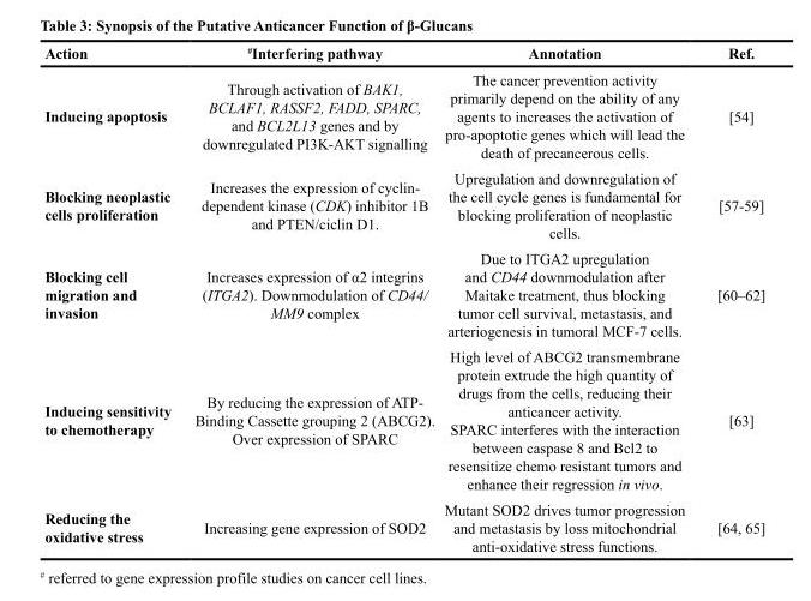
<table><thead><tr><td>Action</td><td><sup>#</sup>Interfering pathway</td><td>Annotation</td><td>Ref.</td></tr></thead><tbody><tr><td>Inducing apoptosis</td><td>Through activation of BAK1, BCLAF1, RASSF2, FADD, SPARC, and BCL2L13 genes and by downregulated PI3K-AKT signalling</td><td>The cancer prevention activity primarily depend on the ability of any agents to increases the activation of pro-apoptotic genes which will lead the death of precancerous cells.</td><td>[54]</td></tr><tr><td>Blocking neoplastic cells proliferation</td><td>Increases the expression of cyclin- dependent kinase (CDK) inhibitor 1B and PTEN/ciclin D1.</td><td>Upregulation and downregulation of the cell cycle genes is fundamental for blocking proliferation of neoplastic cells.</td><td>[57-59]</td></tr><tr><td>Blocking cell migration and invasion</td><td>Increases expression of α2 integrins (ITGA2). Downmodulation of CD44/ MM9 complex</td><td>Due to ITGA2 upregulation and CD44 downmodulation after Maitake treatment, thus blocking tumor cell survival, metastasis, and arteriogenesis in tumoral MCF-7 cells.</td><td>[60–62]</td></tr><tr><td>Inducing sensitivity to chemotherapy</td><td>By reducing the expression of ATP- Binding Cassette grouping 2 (ABCG2). Over expression of SPARC</td><td>High level of ABCG2 transmembrane protein extrude the high quantity of drugs from the cells, reducing their anticancer activity. SPARC interferes with the interaction between caspase 8 and Bcl2 to resensitize chemo resistant tumors and enhance their regression in vivo.</td><td>[63]</td></tr><tr><td>Reducing the oxidative stress</td><td>Increasing gene expression of SOD2</td><td>Mutant SOD2 drives tumor progression and metastasis by loss mitochondrial anti-oxidative stress functions.</td><td>[64, 65]</td></tr></tbody></table>